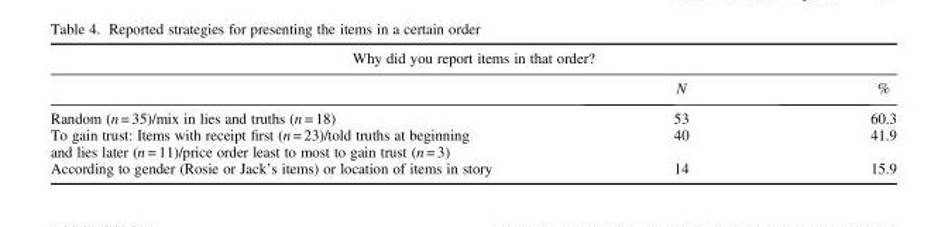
<table><thead><tr><td colspan="3">Why did you report items in that order?</td></tr><tr><td></td><td>N</td><td>%</td></tr></thead><tbody><tr><td>Random (n = 35)/mix in lies and truths (n = 18)</td><td>53</td><td>60.3</td></tr><tr><td>To gain trust: Items with receipt first (n = 23)/told truths at beginning and lies later (n = 11)/price order least to most to gain trust (n = 3)</td><td>40</td><td>41.9</td></tr><tr><td>According to gender (Rosie or Jack’s items) or location of items in story</td><td>14</td><td>15.9</td></tr></tbody></table>